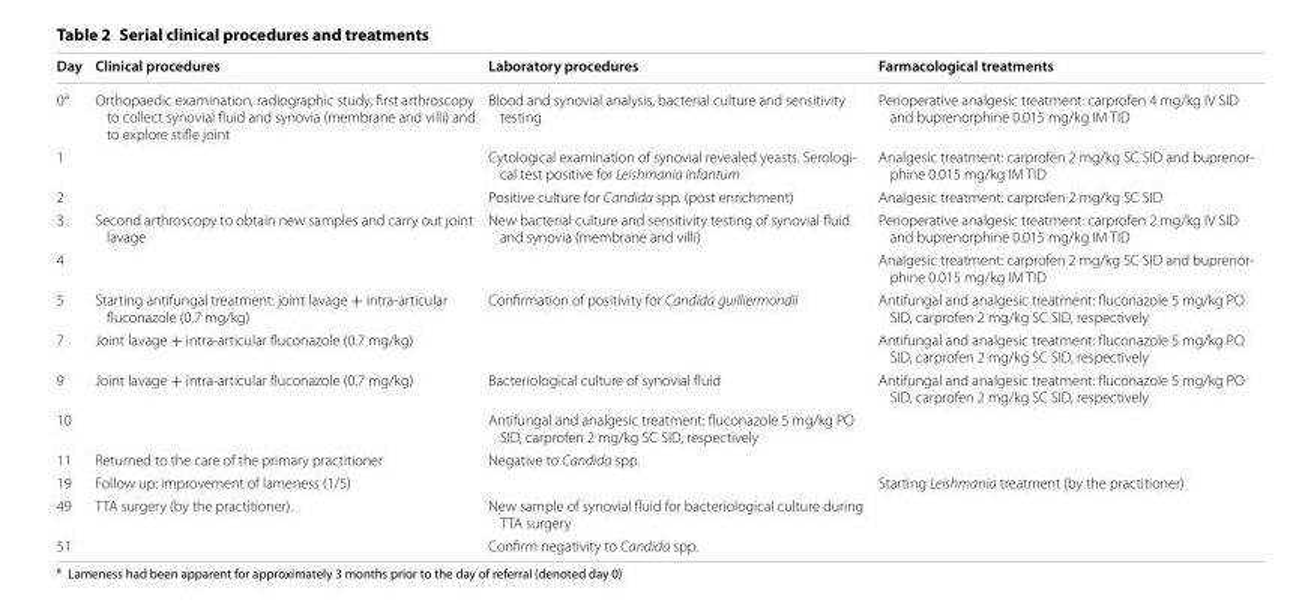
<table><thead><tr><td>Day</td><td>Clinical procedures</td><td>Laboratory procedures</td><td>Farmacological treatments</td></tr></thead><tbody><tr><td>0<sup>a</sup></td><td>Orthopaedic examination, radiographic study, first arthroscopy to collect synovial fluid and synovia (membrane and villi) and to explore stifle joint</td><td>Blood and synovial analysis, bacterial culture and sensitivity testing</td><td>Perioperative analgesic treatment: carprofen 4 mg/kg IV SID and buprenorphine 0.015 mg/kg IM TID</td></tr><tr><td>1</td><td></td><td>Cytological examination of synovial revealed yeasts. Serologi- cal test positive for Leishmania infantum</td><td>Analgesic treatment: carprofen 2 mg/kg SC SID and buprenor- phine 0.015 mg/kg IM TID</td></tr><tr><td>2</td><td></td><td>Positive culture for Candida spp. (post enrichment)</td><td>Analgesic treatment: carprofen 2 mg/kg SC SID</td></tr><tr><td>3</td><td>Second arthroscopy to obtain new samples and carry out joint lavage</td><td>New bacterial culture and sensitivity testing of synovial fluid and synovia (membrane and villi)</td><td>Perioperative analgesic treatment: carprofen 2 mg/kg IV SID and buprenorphine 0.015 mg/kg IM TID</td></tr><tr><td>4</td><td></td><td></td><td>Analgesic treatment: carprofen 2 mg/kg SC SID and buprenor- phine 0.015 mg/kg IM TID</td></tr><tr><td>5</td><td>Starting antifungal treatment: joint lavage + intra-articular fluconazole (0.7 mg/kg)</td><td>Confirmation of positivity for Candida guilliermondii</td><td>Antifungal and analgesic treatment: fluconazole 5 mg/kg PO SID, carprofen 2 mg/kg SC SID, respectively</td></tr><tr><td>7</td><td>Joint lavage + intra-articular fluconazole (0.7 mg/kg)</td><td></td><td>Antifungal and analgesic treatment: fluconazole 5 mg/kg PO SID, carprofen 2 mg/kg SC SID, respectively</td></tr><tr><td>9</td><td>Joint lavage + intra-articular fluconazole (0.7 mg/kg)</td><td>Bacteriological culture of synovial fluid</td><td>Antifungal and analgesic treatment: fluconazole 5 mg/kg PO SID, carprofen 2 mg/kg SC SID, respectively</td></tr><tr><td>10</td><td></td><td>Antifungal and analgesic treatment: fluconazole 5 mg/kg PO SID, carprofen 2 mg/kg SC SID, respectively</td><td></td></tr><tr><td>11</td><td>Returned to the care of the primary practitioner</td><td>Negative to Candida spp.</td><td></td></tr><tr><td>19</td><td>Follow up: improvement of lameness (1/5)</td><td></td><td>Starting Leishmania treatment (by the practitioner)</td></tr><tr><td>49</td><td>TTA surgery (by the practitioner).</td><td>New sample of synovial fluid for bacteriological culture during TTA surgery</td><td></td></tr><tr><td>51</td><td></td><td>Confirm negativity to Candida spp.</td><td></td></tr></tbody></table>